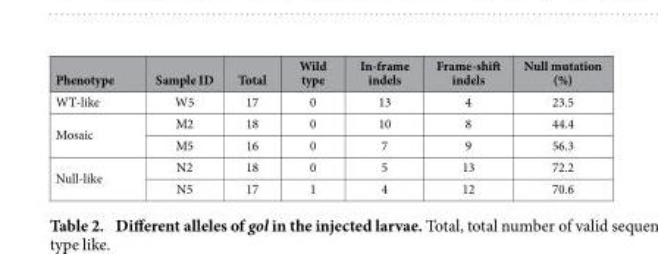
<table><thead><tr><td>Phenotype</td><td>Sample ID</td><td>Total</td><td>Wild type</td><td>In-frame indels</td><td>Frame-shift indels</td><td>Null mutation (%)</td></tr></thead><tbody><tr><td>WT-like</td><td>W5</td><td>17</td><td>0</td><td>13</td><td>4</td><td>23.5</td></tr><tr><td rowspan="2">Mosaic</td><td>M2</td><td>18</td><td>0</td><td>10</td><td>8</td><td>44.4</td></tr><tr><td>M5</td><td>16</td><td>0</td><td>7</td><td>9</td><td>56.3</td></tr><tr><td rowspan="2">Null-like</td><td>N2</td><td>18</td><td>0</td><td>5</td><td>13</td><td>72.2</td></tr><tr><td>N5</td><td>17</td><td>1</td><td>4</td><td>12</td><td>70.6</td></tr></tbody></table>